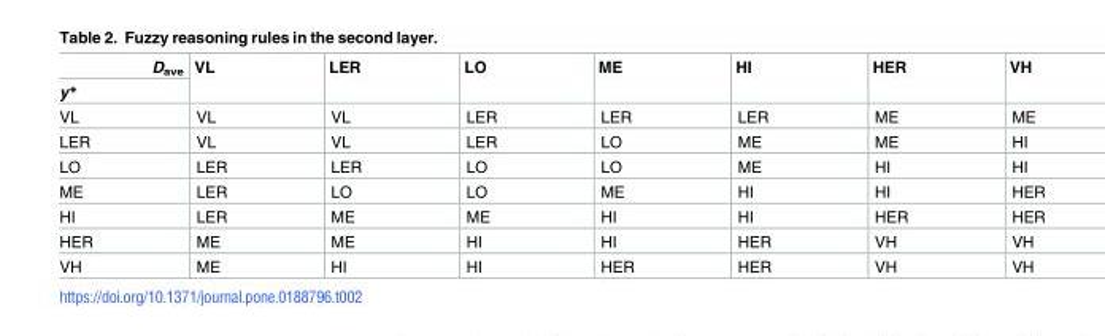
<table><thead><tr><td rowspan="2">D<sub>ave</sub> y*</td><td rowspan="2">VL</td><td rowspan="2">LER</td><td rowspan="2">LO</td><td rowspan="2">ME</td><td rowspan="2">HI</td><td rowspan="2">HER</td><td rowspan="2">VH</td></tr><tr></tr></thead><tbody><tr><td>VL</td><td>VL</td><td>VL</td><td>LER</td><td>LER</td><td>LER</td><td>ME</td><td>ME</td></tr><tr><td>LER</td><td>VL</td><td>VL</td><td>LER</td><td>LO</td><td>ME</td><td>ME</td><td>HI</td></tr><tr><td>LO</td><td>LER</td><td>LER</td><td>LO</td><td>LO</td><td>ME</td><td>HI</td><td>HI</td></tr><tr><td>ME</td><td>LER</td><td>LO</td><td>LO</td><td>ME</td><td>HI</td><td>HI</td><td>HER</td></tr><tr><td>HI</td><td>LER</td><td>ME</td><td>ME</td><td>HI</td><td>HI</td><td>HER</td><td>HER</td></tr><tr><td>HER</td><td>ME</td><td>ME</td><td>HI</td><td>HI</td><td>HER</td><td>VH</td><td>VH</td></tr><tr><td>VH</td><td>ME</td><td>HI</td><td>HI</td><td>HER</td><td>HER</td><td>VH</td><td>VH</td></tr></tbody></table>